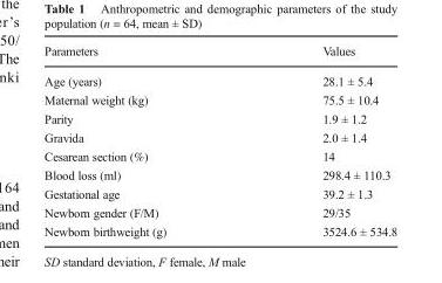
<table><thead><tr><td>Parameters</td><td>Values</td></tr></thead><tbody><tr><td>Age (years)</td><td>28.1 ± 5.4</td></tr><tr><td>Maternal weight (kg)</td><td>75.5 ± 10.4</td></tr><tr><td>Parity</td><td>1.9 ± 1.2</td></tr><tr><td>Gravida</td><td>2.0 ± 1.4</td></tr><tr><td>Cesarean section (%)</td><td>14</td></tr><tr><td>Blood loss (ml)</td><td>298.4 ± 110.3</td></tr><tr><td>Gestational age</td><td>39.2 ± 1.3</td></tr><tr><td>Newborn gender (F/M)</td><td>29/35</td></tr><tr><td>Newborn birthweight (g)</td><td>3524.6 ± 534.8</td></tr></tbody></table>